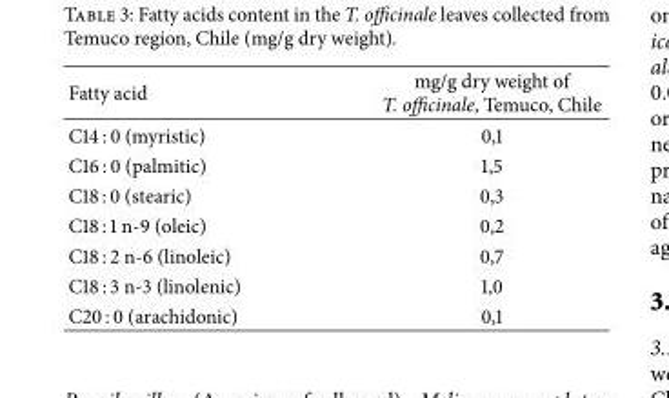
<table><thead><tr><td>Fatty acid</td><td>mg/g dry weight of T. officinale, Temuco, Chile</td></tr></thead><tbody><tr><td>C14 : 0 (myristic)</td><td>0,1</td></tr><tr><td>C16 : 0 (palmitic)</td><td>1,5</td></tr><tr><td>C18 : 0 (stearic)</td><td>0,3</td></tr><tr><td>C18 : 1 n-9 (oleic)</td><td>0,2</td></tr><tr><td>C18 : 2 n-6 (linoleic)</td><td>0,7</td></tr><tr><td>C18 : 3 n-3 (linolenic)</td><td>1,0</td></tr><tr><td>C20 : 0 (arachidonic)</td><td>0,1</td></tr></tbody></table>